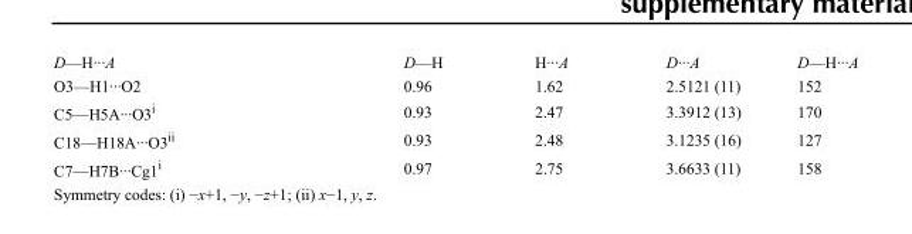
<table><tbody><tr><td>D—H···A</td><td>D—H</td><td>H···A</td><td>D···A</td><td>D—H···A</td></tr><tr><td>O3—H1···O2</td><td>0.96</td><td>1.62</td><td>2.5121 (11)</td><td>152</td></tr><tr><td>C5—H5A···O3<sup>i</sup></td><td>0.93</td><td>2.47</td><td>3.3912 (13)</td><td>170</td></tr><tr><td>C18—H18A···O3<sup>ii</sup></td><td>0.93</td><td>2.48</td><td>3.1235 (16)</td><td>127</td></tr><tr><td>C7—H7B···Cg1<sup>i</sup></td><td>0.97</td><td>2.75</td><td>3.6633 (11)</td><td>158</td></tr></tbody></table>